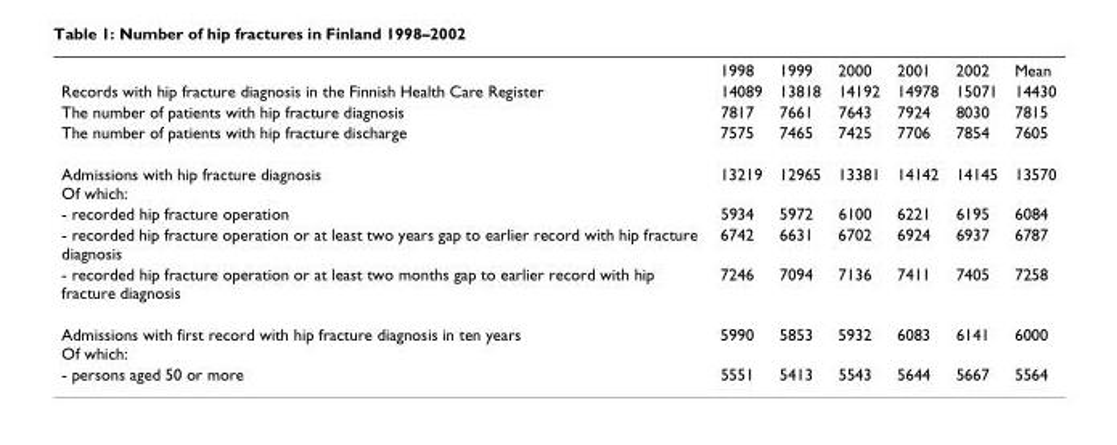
<table><thead><tr><td></td><td>1998</td><td>1999</td><td>2000</td><td>2001</td><td>2002</td><td>Mean</td></tr></thead><tbody><tr><td>Records with hip fracture diagnosis in the Finnish Health Care Register</td><td>14089</td><td>13818</td><td>14192</td><td>14978</td><td>15071</td><td>14430</td></tr><tr><td>The number of patients with hip fracture diagnosis</td><td>7817</td><td>7661</td><td>7643</td><td>7924</td><td>8030</td><td>7815</td></tr><tr><td>The number of patients with hip fracture discharge</td><td>7575</td><td>7465</td><td>7425</td><td>7706</td><td>7854</td><td>7605</td></tr><tr><td>Admissions with hip fracture diagnosis Of which:</td><td>13219</td><td>12965</td><td>13381</td><td>14142</td><td>14145</td><td>13570</td></tr><tr><td>- recorded hip fracture operation</td><td>5934</td><td>5972</td><td>6100</td><td>6221</td><td>6195</td><td>6084</td></tr><tr><td>- recorded hip fracture operation or at least two years gap to earlier record with hip fracture diagnosis</td><td>6742</td><td>6631</td><td>6702</td><td>6924</td><td>6937</td><td>6787</td></tr><tr><td>- recorded hip fracture operation or at least two months gap to earlier record with hip fracture diagnosis</td><td>7246</td><td>7094</td><td>7136</td><td>7411</td><td>7405</td><td>7258</td></tr><tr><td>Admissions with first record with hip fracture diagnosis in ten years Of which:</td><td>5990</td><td>5853</td><td>5932</td><td>6083</td><td>6141</td><td>6000</td></tr><tr><td>- persons aged 50 or more</td><td>5551</td><td>5413</td><td>5543</td><td>5644</td><td>5667</td><td>5564</td></tr></tbody></table>